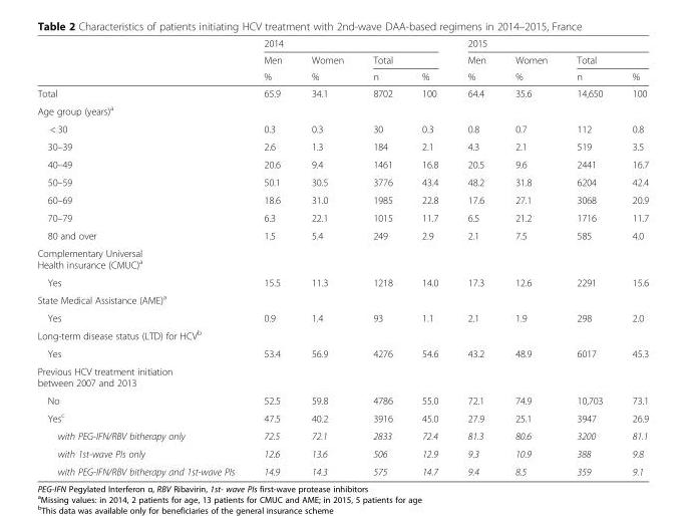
<table><thead><tr><td rowspan="3"></td><td colspan="4">2014</td><td colspan="4">2015</td></tr><tr><td rowspan="2">Men %</td><td rowspan="2">Women %</td><td colspan="2">Total</td><td rowspan="2">Men %</td><td rowspan="2">Women %</td><td colspan="2">Total</td></tr><tr><td>n</td><td>%</td><td>n</td><td>%</td></tr></thead><tbody><tr><td>Total</td><td>65.9</td><td>34.1</td><td>8702</td><td>100</td><td>64.4</td><td>35.6</td><td>14,650</td><td>100</td></tr><tr><td colspan="9">Age group (years)<sup>a</sup></td></tr><tr><td>&lt; 30</td><td>0.3</td><td>0.3</td><td>30</td><td>0.3</td><td>0.8</td><td>0.7</td><td>112</td><td>0.8</td></tr><tr><td>30–39</td><td>2.6</td><td>1.3</td><td>184</td><td>2.1</td><td>4.3</td><td>2.1</td><td>519</td><td>3.5</td></tr><tr><td>40–49</td><td>20.6</td><td>9.4</td><td>1461</td><td>16.8</td><td>20.5</td><td>9.6</td><td>2441</td><td>16.7</td></tr><tr><td>50–59</td><td>50.1</td><td>30.5</td><td>3776</td><td>43.4</td><td>48.2</td><td>31.8</td><td>6204</td><td>42.4</td></tr><tr><td>60–69</td><td>18.6</td><td>31.0</td><td>1985</td><td>22.8</td><td>17.6</td><td>27.1</td><td>3068</td><td>20.9</td></tr><tr><td>70–79</td><td>6.3</td><td>22.1</td><td>1015</td><td>11.7</td><td>6.5</td><td>21.2</td><td>1716</td><td>11.7</td></tr><tr><td>80 and over</td><td>1.5</td><td>5.4</td><td>249</td><td>2.9</td><td>2.1</td><td>7.5</td><td>585</td><td>4.0</td></tr><tr><td colspan="9">Complementary Universal Health insurance (CMUC)<sup>a</sup></td></tr><tr><td>Yes</td><td>15.5</td><td>11.3</td><td>1218</td><td>14.0</td><td>17.3</td><td>12.6</td><td>2291</td><td>15.6</td></tr><tr><td colspan="9">State Medical Assistance (AME)<sup>a</sup></td></tr><tr><td>Yes</td><td>0.9</td><td>1.4</td><td>93</td><td>1.1</td><td>2.1</td><td>1.9</td><td>298</td><td>2.0</td></tr><tr><td colspan="9">Long-term disease status (LTD) for HCV<sup>b</sup></td></tr><tr><td>Yes</td><td>53.4</td><td>56.9</td><td>4276</td><td>54.6</td><td>43.2</td><td>48.9</td><td>6017</td><td>45.3</td></tr><tr><td colspan="9">Previous HCV treatment initiation between 2007 and 2013</td></tr><tr><td>No</td><td>52.5</td><td>59.8</td><td>4786</td><td>55.0</td><td>72.1</td><td>74.9</td><td>10,703</td><td>73.1</td></tr><tr><td>Yes<sup>c</sup></td><td>47.5</td><td>40.2</td><td>3916</td><td>45.0</td><td>27.9</td><td>25.1</td><td>3947</td><td>26.9</td></tr><tr><td>with PEG-IFN/RBV bitherapy only</td><td>72.5</td><td>72.1</td><td>2833</td><td>72.4</td><td>81.3</td><td>80.6</td><td>3200</td><td>81.1</td></tr><tr><td>with 1st-wave PIs only</td><td>12.6</td><td>13.6</td><td>506</td><td>12.9</td><td>9.3</td><td>10.9</td><td>388</td><td>9.8</td></tr><tr><td>with PEG-IFN/RBV bitherapy and 1st-wave PIs</td><td>14.9</td><td>14.3</td><td>575</td><td>14.7</td><td>9.4</td><td>8.5</td><td>359</td><td>9.1</td></tr></tbody></table>